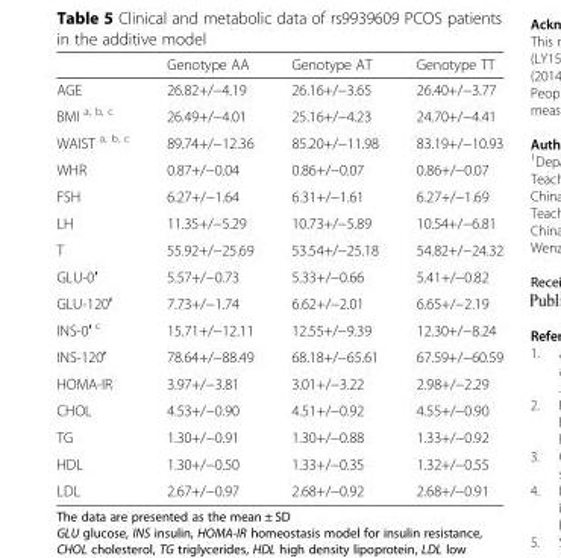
<table><thead><tr><td></td><td>Genotype AA</td><td>Genotype AT</td><td>Genotype TT</td></tr></thead><tbody><tr><td>AGE</td><td>26.82+/−4.19</td><td>26.16+/−3.65</td><td>26.40+/−3.77</td></tr><tr><td>BMI <sup>a, b, c</sup></td><td>26.49+/−4.01</td><td>25.16+/−4.23</td><td>24.70+/−4.41</td></tr><tr><td>WAIST <sup>a, b, c</sup></td><td>89.74+/−12.36</td><td>85.20+/−11.98</td><td>83.19+/−10.93</td></tr><tr><td>WHR</td><td>0.87+/−0.04</td><td>0.86+/−0.07</td><td>0.86+/−0.07</td></tr><tr><td>FSH</td><td>6.27+/−1.64</td><td>6.31+/−1.61</td><td>6.27+/−1.69</td></tr><tr><td>LH</td><td>11.35+/−5.29</td><td>10.73+/−5.89</td><td>10.54+/−6.81</td></tr><tr><td>T</td><td>55.92+/−25.69</td><td>53.54+/−25.18</td><td>54.82+/−24.32</td></tr><tr><td>GLU-0′</td><td>5.57+/−0.73</td><td>5.33+/−0.66</td><td>5.41+/−0.82</td></tr><tr><td>GLU-120′</td><td>7.73+/−1.74</td><td>6.62+/−2.01</td><td>6.65+/−2.19</td></tr><tr><td>INS-0′ <sup>c</sup></td><td>15.71+/−12.11</td><td>12.55+/−9.39</td><td>12.30+/−8.24</td></tr><tr><td>INS-120′</td><td>78.64+/−88.49</td><td>68.18+/−65.61</td><td>67.59+/−60.59</td></tr><tr><td>HOMA-IR</td><td>3.97+/−3.81</td><td>3.01+/−3.22</td><td>2.98+/−2.29</td></tr><tr><td>CHOL</td><td>4.53+/−0.90</td><td>4.51+/−0.92</td><td>4.55+/−0.90</td></tr><tr><td>TG</td><td>1.30+/−0.91</td><td>1.30+/−0.88</td><td>1.33+/−0.92</td></tr><tr><td>HDL</td><td>1.30+/−0.50</td><td>1.33+/−0.35</td><td>1.32+/−0.55</td></tr><tr><td>LDL</td><td>2.67+/−0.97</td><td>2.68+/−0.92</td><td>2.68+/−0.91</td></tr></tbody></table>